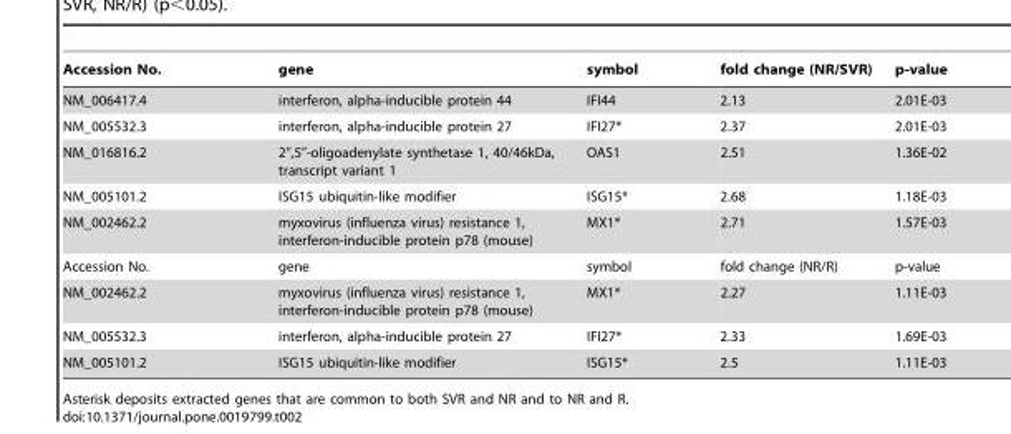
<table><thead><tr><td>Accession No.</td><td>gene</td><td>symbol</td><td>fold change (NR/SVR)</td><td>p-value</td></tr></thead><tbody><tr><td>NM_006417.4</td><td>interferon, alpha-inducible protein 44</td><td>IFI44</td><td>2.13</td><td>2.01E-03</td></tr><tr><td>NM_005532.3</td><td>interferon, alpha-inducible protein 27</td><td>IFI27*</td><td>2.37</td><td>2.01E-03</td></tr><tr><td>NM_016816.2</td><td>2″,5″-oligoadenylate synthetase 1, 40/46kDa, transcript variant 1</td><td>OAS1</td><td>2.51</td><td>1.36E-02</td></tr><tr><td>NM_005101.2</td><td>ISG15 ubiquitin-like modifier</td><td>ISG15*</td><td>2.68</td><td>1.18E-03</td></tr><tr><td>NM_002462.2</td><td>myxovirus (influenza virus) resistance 1, interferon-inducible protein p78 (mouse)</td><td>MX1*</td><td>2.71</td><td>1.57E-03</td></tr><tr><td>Accession No.</td><td>gene</td><td>symbol</td><td>fold change (NR/R)</td><td>p-value</td></tr><tr><td>NM_002462.2</td><td>myxovirus (influenza virus) resistance 1, interferon-inducible protein p78 (mouse)</td><td>MX1*</td><td>2.27</td><td>1.11E-03</td></tr><tr><td>NM_005532.3</td><td>interferon, alpha-inducible protein 27</td><td>IFI27*</td><td>2.33</td><td>1.69E-03</td></tr><tr><td>NM_005101.2</td><td>ISG15 ubiquitin-like modifier</td><td>ISG15*</td><td>2.5</td><td>1.11E-03</td></tr></tbody></table>